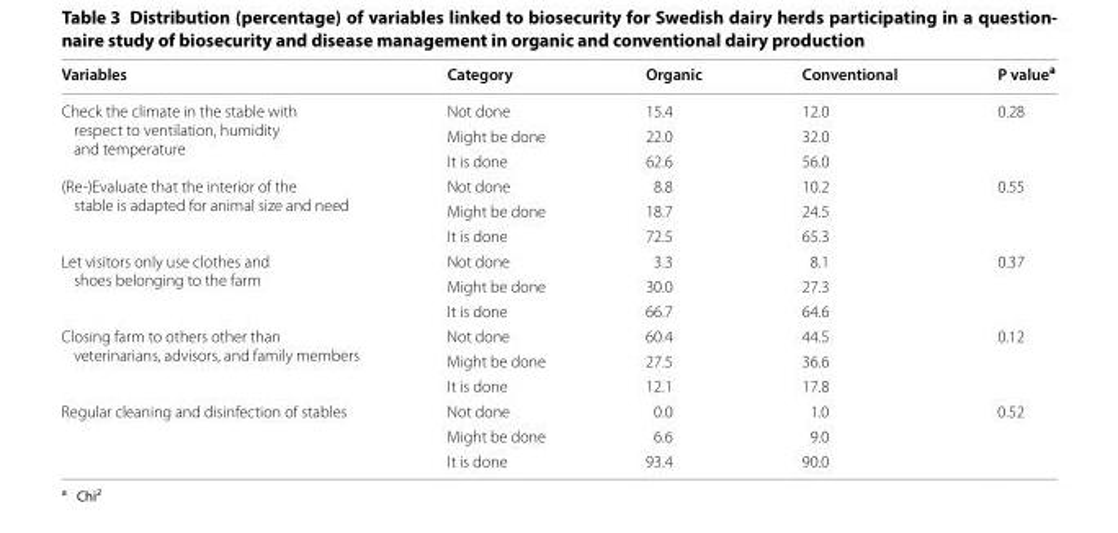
<table><thead><tr><td>Variables</td><td>Category</td><td>Organic</td><td>Conventional</td><td>P value<sup>a</sup></td></tr></thead><tbody><tr><td rowspan="3">Check the climate in the stable with respect to ventilation, humidity and temperature</td><td>Not done</td><td>15.4</td><td>12.0</td><td>0.28</td></tr><tr><td>Might be done</td><td>22.0</td><td>32.0</td><td></td></tr><tr><td>It is done</td><td>62.6</td><td>56.0</td><td></td></tr><tr><td rowspan="3">(Re-)Evaluate that the interior of the stable is adapted for animal size and need</td><td>Not done</td><td>8.8</td><td>10.2</td><td>0.55</td></tr><tr><td>Might be done</td><td>18.7</td><td>24.5</td><td></td></tr><tr><td>It is done</td><td>72.5</td><td>65.3</td><td></td></tr><tr><td rowspan="3">Let visitors only use clothes and shoes belonging to the farm</td><td>Not done</td><td>3.3</td><td>8.1</td><td>0.37</td></tr><tr><td>Might be done</td><td>30.0</td><td>27.3</td><td></td></tr><tr><td>It is done</td><td>66.7</td><td>64.6</td><td></td></tr><tr><td rowspan="3">Closing farm to others other than veterinarians, advisors, and family members</td><td>Not done</td><td>60.4</td><td>44.5</td><td>0.12</td></tr><tr><td>Might be done</td><td>27.5</td><td>36.6</td><td></td></tr><tr><td>It is done</td><td>12.1</td><td>17.8</td><td></td></tr><tr><td rowspan="3">Regular cleaning and disinfection of stables</td><td>Not done</td><td>0.0</td><td>1.0</td><td>0.52</td></tr><tr><td>Might be done</td><td>6.6</td><td>9.0</td><td></td></tr><tr><td>It is done</td><td>93.4</td><td>90.0</td><td></td></tr></tbody></table>